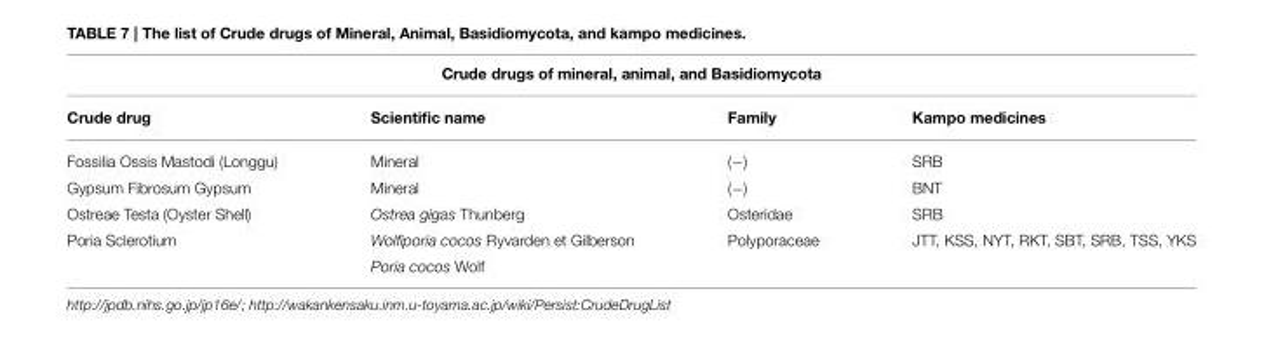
<table><thead><tr><td colspan="4">Crude drugs of mineral, animal, and Basidiomycota</td></tr><tr><td>Crude drug</td><td>Scientific name</td><td>Family</td><td>Kampo medicines</td></tr></thead><tbody><tr><td>Fossilia Ossis Mastodi (Longgu)</td><td>Mineral</td><td>(−)</td><td>SRB</td></tr><tr><td>Gypsum Fibrosum Gypsum</td><td>Mineral</td><td>(−)</td><td>BNT</td></tr><tr><td>Ostreae Testa (Oyster Shell)</td><td>Ostrea gigas Thunberg</td><td>Osteridae</td><td>SRB</td></tr><tr><td rowspan="2">Poria Sclerotium</td><td>Wolfiporia cocos Ryvarden et Gilberson</td><td>Polyporaceae</td><td>JTT, KSS, NYT, RKT, SBT, SRB, TSS, YKS</td></tr><tr><td>Poria cocos Wolf</td><td></td><td></td></tr></tbody></table>